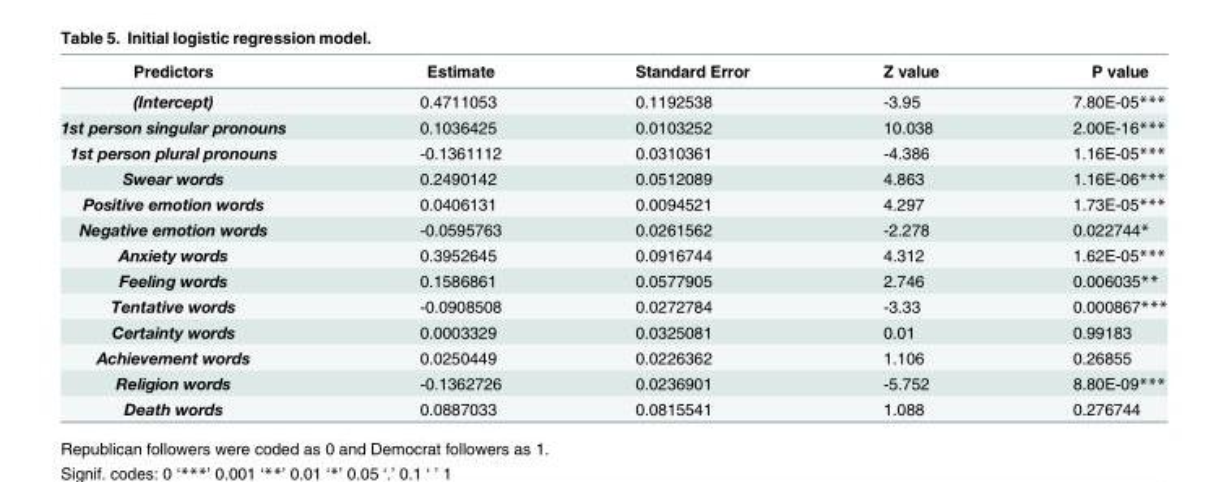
<table><thead><tr><td>Predictors</td><td>Estimate</td><td>Standard Error</td><td>Z value</td><td>P value</td></tr></thead><tbody><tr><td>(Intercept)</td><td>0.4711053</td><td>0.1192538</td><td>-3.95</td><td>7.80E-05***</td></tr><tr><td>1st person singular pronouns</td><td>0.1036425</td><td>0.0103252</td><td>10.038</td><td>2.00E-16***</td></tr><tr><td>1st person plural pronouns</td><td>-0.1361112</td><td>0.0310361</td><td>-4.386</td><td>1.16E-05***</td></tr><tr><td>Swear words</td><td>0.2490142</td><td>0.0512089</td><td>4.863</td><td>1.16E-06***</td></tr><tr><td>Positive emotion words</td><td>0.0406131</td><td>0.0094521</td><td>4.297</td><td>1.73E-05***</td></tr><tr><td>Negative emotion words</td><td>-0.0595763</td><td>0.0261562</td><td>-2.278</td><td>0.022744*</td></tr><tr><td>Anxiety words</td><td>0.3952645</td><td>0.0916744</td><td>4.312</td><td>1.62E-05***</td></tr><tr><td>Feeling words</td><td>0.1586861</td><td>0.0577905</td><td>2.746</td><td>0.006035**</td></tr><tr><td>Tentative words</td><td>-0.0908508</td><td>0.0272784</td><td>-3.33</td><td>0.000867***</td></tr><tr><td>Certainty words</td><td>0.0003329</td><td>0.0325081</td><td>0.01</td><td>0.99183</td></tr><tr><td>Achievement words</td><td>0.0250449</td><td>0.0226362</td><td>1.106</td><td>0.26855</td></tr><tr><td>Religion words</td><td>-0.1362726</td><td>0.0236901</td><td>-5.752</td><td>8.80E-09***</td></tr><tr><td>Death words</td><td>0.0887033</td><td>0.0815541</td><td>1.088</td><td>0.276744</td></tr></tbody></table>